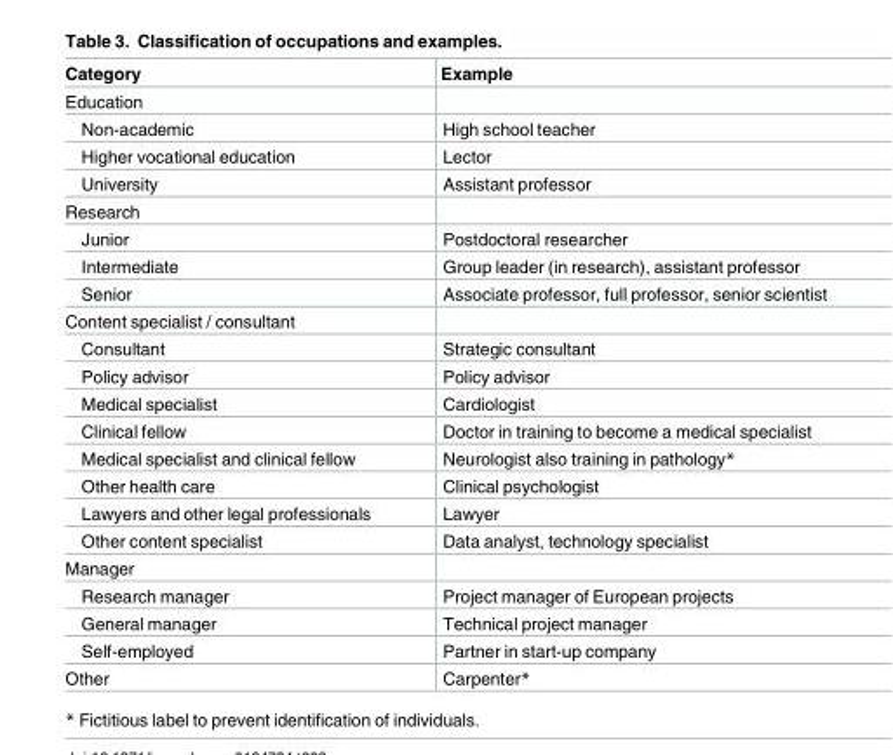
<table><thead><tr><td>Category</td><td>Example</td></tr></thead><tbody><tr><td colspan="2">Education</td></tr><tr><td>Non-academic</td><td>High school teacher</td></tr><tr><td>Higher vocational education</td><td>Lector</td></tr><tr><td>University</td><td>Assistant professor</td></tr><tr><td colspan="2">Research</td></tr><tr><td>Junior</td><td>Postdoctoral researcher</td></tr><tr><td>Intermediate</td><td>Group leader (in research), assistant professor</td></tr><tr><td>Senior</td><td>Associate professor, full professor, senior scientist</td></tr><tr><td colspan="2">Content specialist / consultant</td></tr><tr><td>Consultant</td><td>Strategic consultant</td></tr><tr><td>Policy advisor</td><td>Policy advisor</td></tr><tr><td>Medical specialist</td><td>Cardiologist</td></tr><tr><td>Clinical fellow</td><td>Doctor in training to become a medical specialist</td></tr><tr><td>Medical specialist and clinical fellow</td><td>Neurologist also training in pathology*</td></tr><tr><td>Other health care</td><td>Clinical psychologist</td></tr><tr><td>Lawyers and other legal professionals</td><td>Lawyer</td></tr><tr><td>Other content specialist</td><td>Data analyst, technology specialist</td></tr><tr><td colspan="2">Manager</td></tr><tr><td>Research manager</td><td>Project manager of European projects</td></tr><tr><td>General manager</td><td>Technical project manager</td></tr><tr><td>Self-employed</td><td>Partner in start-up company</td></tr><tr><td>Other</td><td>Carpenter*</td></tr></tbody></table>